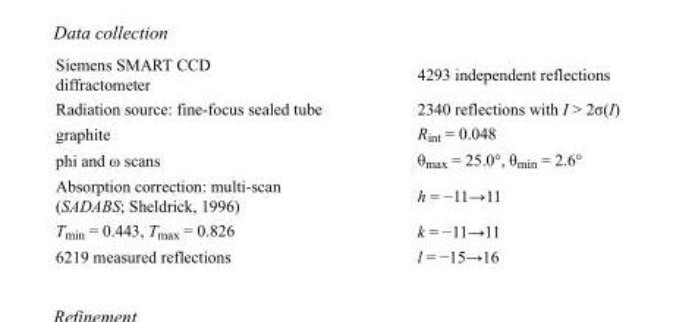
<table><tbody><tr><td>Siemens SMART CCD diffractometer</td><td>4293 independent reflections</td></tr><tr><td>Radiation source: fine-focus sealed tube</td><td>2340 reflections with I &gt; 2σ(I)</td></tr><tr><td>graphite</td><td>R<sub>int</sub> = 0.048</td></tr><tr><td>phi and ω scans</td><td>θ<sub>max</sub> = 25.0°, θ<sub>min</sub> = 2.6°</td></tr><tr><td>Absorption correction: multi-scan (SADABS; Sheldrick, 1996)</td><td>h = −11→11</td></tr><tr><td>T<sub>min</sub> = 0.443, T<sub>max</sub> = 0.826</td><td>k = −11→11</td></tr><tr><td>6219 measured reflections</td><td>l = −15→16</td></tr></tbody></table>